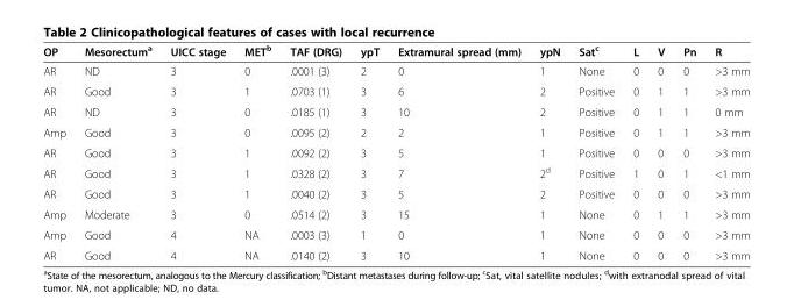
<table><thead><tr><td>OP</td><td>Mesorectum<sup>a</sup></td><td>UICC stage</td><td>MET<sup>b</sup></td><td>TAF (DRG)</td><td>ypT</td><td>Extramural spread (mm)</td><td>ypN</td><td>Sat<sup>c</sup></td><td>L</td><td>V</td><td>Pn</td><td>R</td></tr></thead><tbody><tr><td>AR</td><td>ND</td><td>3</td><td>0</td><td>.0001 (3)</td><td>2</td><td>0</td><td>1</td><td>None</td><td>0</td><td>0</td><td>0</td><td>&gt;3 mm</td></tr><tr><td>AR</td><td>Good</td><td>3</td><td>1</td><td>.0703 (1)</td><td>3</td><td>6</td><td>2</td><td>Positive</td><td>0</td><td>1</td><td>1</td><td>&gt;3 mm</td></tr><tr><td>AR</td><td>ND</td><td>3</td><td>0</td><td>.0185 (1)</td><td>3</td><td>10</td><td>2</td><td>Positive</td><td>0</td><td>1</td><td>1</td><td>0 mm</td></tr><tr><td>Amp</td><td>Good</td><td>3</td><td>0</td><td>.0095 (2)</td><td>2</td><td>2</td><td>1</td><td>Positive</td><td>0</td><td>1</td><td>1</td><td>&gt;3 mm</td></tr><tr><td>AR</td><td>Good</td><td>3</td><td>1</td><td>.0092 (2)</td><td>3</td><td>5</td><td>1</td><td>Positive</td><td>0</td><td>0</td><td>0</td><td>&gt;3 mm</td></tr><tr><td>AR</td><td>Good</td><td>3</td><td>1</td><td>.0328 (2)</td><td>3</td><td>7</td><td>2<sup>d</sup></td><td>Positive</td><td>1</td><td>0</td><td>1</td><td>&lt;1 mm</td></tr><tr><td>AR</td><td>Good</td><td>3</td><td>1</td><td>.0040 (2)</td><td>3</td><td>5</td><td>2</td><td>Positive</td><td>0</td><td>0</td><td>0</td><td>&gt;3 mm</td></tr><tr><td>Amp</td><td>Moderate</td><td>3</td><td>0</td><td>.0514 (2)</td><td>3</td><td>15</td><td>1</td><td>None</td><td>0</td><td>1</td><td>1</td><td>&gt;3 mm</td></tr><tr><td>Amp</td><td>Good</td><td>4</td><td>NA</td><td>.0003 (3)</td><td>1</td><td>0</td><td>1</td><td>None</td><td>0</td><td>0</td><td>0</td><td>&gt;3 mm</td></tr><tr><td>AR</td><td>Good</td><td>4</td><td>NA</td><td>.0140 (2)</td><td>3</td><td>10</td><td>1</td><td>None</td><td>0</td><td>0</td><td>0</td><td>&gt;3 mm</td></tr></tbody></table>